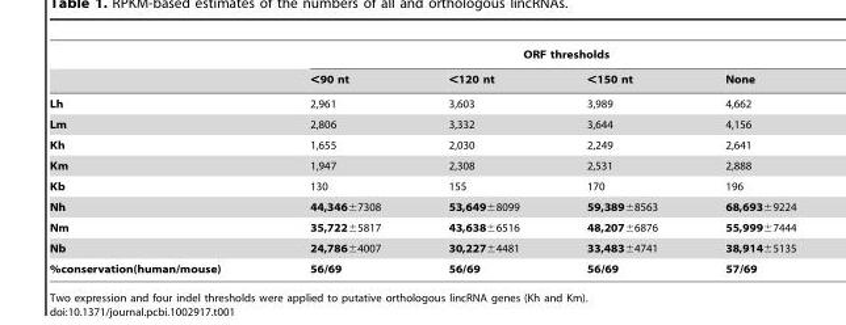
<table><thead><tr><td rowspan="2"></td><td colspan="4">ORF thresholds</td></tr><tr><td>&lt;90 nt</td><td>&lt;120 nt</td><td>&lt;150 nt</td><td>None</td></tr></thead><tbody><tr><td>Lh</td><td>2,961</td><td>3,603</td><td>3,989</td><td>4,662</td></tr><tr><td>Lm</td><td>2,806</td><td>3,332</td><td>3,644</td><td>4,156</td></tr><tr><td>Kh</td><td>1,655</td><td>2,030</td><td>2,249</td><td>2,641</td></tr><tr><td>Km</td><td>1,947</td><td>2,308</td><td>2,531</td><td>2,888</td></tr><tr><td>Kb</td><td>130</td><td>155</td><td>170</td><td>196</td></tr><tr><td>Nh</td><td>44,346±7308</td><td>53,649±8099</td><td>59,389±8563</td><td>68,693±9224</td></tr><tr><td>Nm</td><td>35,722±5817</td><td>43,638±6516</td><td>48,207±6876</td><td>55,999±7444</td></tr><tr><td>Nb</td><td>24,786±4007</td><td>30,227±4481</td><td>33,483±4741</td><td>38,914±5135</td></tr><tr><td>%conservation(human/mouse)</td><td>56/69</td><td>56/69</td><td>56/69</td><td>57/69</td></tr></tbody></table>